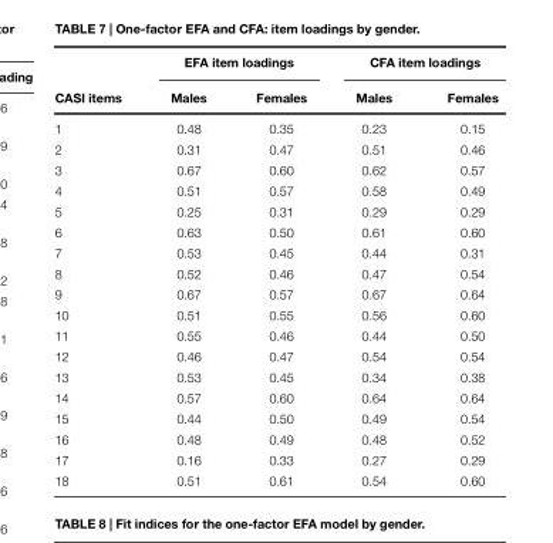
<table><thead><tr><td rowspan="2">CASI items</td><td colspan="2">EFA item loadings</td><td colspan="2">CFA item loadings</td></tr><tr><td>Males</td><td>Females</td><td>Males</td><td>Females</td></tr></thead><tbody><tr><td>1</td><td>0.48</td><td>0.35</td><td>0.23</td><td>0.15</td></tr><tr><td>2</td><td>0.31</td><td>0.47</td><td>0.51</td><td>0.46</td></tr><tr><td>3</td><td>0.67</td><td>0.60</td><td>0.62</td><td>0.57</td></tr><tr><td>4</td><td>0.51</td><td>0.57</td><td>0.58</td><td>0.49</td></tr><tr><td>5</td><td>0.25</td><td>0.31</td><td>0.29</td><td>0.29</td></tr><tr><td>6</td><td>0.63</td><td>0.50</td><td>0.61</td><td>0.60</td></tr><tr><td>7</td><td>0.53</td><td>0.45</td><td>0.44</td><td>0.31</td></tr><tr><td>8</td><td>0.52</td><td>0.46</td><td>0.47</td><td>0.54</td></tr><tr><td>9</td><td>0.67</td><td>0.57</td><td>0.67</td><td>0.64</td></tr><tr><td>10</td><td>0.51</td><td>0.55</td><td>0.56</td><td>0.60</td></tr><tr><td>11</td><td>0.55</td><td>0.46</td><td>0.44</td><td>0.50</td></tr><tr><td>12</td><td>0.46</td><td>0.47</td><td>0.54</td><td>0.54</td></tr><tr><td>13</td><td>0.53</td><td>0.45</td><td>0.34</td><td>0.38</td></tr><tr><td>14</td><td>0.57</td><td>0.60</td><td>0.64</td><td>0.64</td></tr><tr><td>15</td><td>0.44</td><td>0.50</td><td>0.49</td><td>0.54</td></tr><tr><td>16</td><td>0.48</td><td>0.49</td><td>0.48</td><td>0.52</td></tr><tr><td>17</td><td>0.16</td><td>0.33</td><td>0.27</td><td>0.29</td></tr><tr><td>18</td><td>0.51</td><td>0.61</td><td>0.54</td><td>0.60</td></tr></tbody></table>